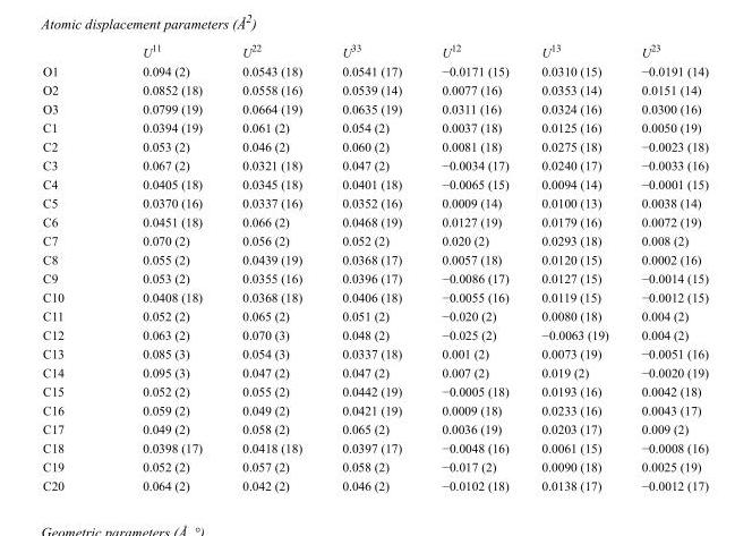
<table><thead><tr><td></td><td>U<sup>11</sup></td><td>U<sup>22</sup></td><td>U<sup>33</sup></td><td>U<sup>12</sup></td><td>U<sup>13</sup></td><td>U<sup>23</sup></td></tr></thead><tbody><tr><td>O1</td><td>0.094 (2)</td><td>0.0543 (18)</td><td>0.0541 (17)</td><td>−0.0171 (15)</td><td>0.0310 (15)</td><td>−0.0191 (14)</td></tr><tr><td>O2</td><td>0.0852 (18)</td><td>0.0558 (16)</td><td>0.0539 (14)</td><td>0.0077 (16)</td><td>0.0353 (14)</td><td>0.0151 (14)</td></tr><tr><td>O3</td><td>0.0799 (19)</td><td>0.0664 (19)</td><td>0.0635 (19)</td><td>0.0311 (16)</td><td>0.0324 (16)</td><td>0.0300 (16)</td></tr><tr><td>C1</td><td>0.0394 (19)</td><td>0.061 (2)</td><td>0.054 (2)</td><td>0.0037 (18)</td><td>0.0125 (16)</td><td>0.0050 (19)</td></tr><tr><td>C2</td><td>0.053 (2)</td><td>0.046 (2)</td><td>0.060 (2)</td><td>0.0081 (18)</td><td>0.0275 (18)</td><td>−0.0023 (18)</td></tr><tr><td>C3</td><td>0.067 (2)</td><td>0.0321 (18)</td><td>0.047 (2)</td><td>−0.0034 (17)</td><td>0.0240 (17)</td><td>−0.0033 (16)</td></tr><tr><td>C4</td><td>0.0405 (18)</td><td>0.0345 (18)</td><td>0.0401 (18)</td><td>−0.0065 (15)</td><td>0.0094 (14)</td><td>−0.0001 (15)</td></tr><tr><td>C5</td><td>0.0370 (16)</td><td>0.0337 (16)</td><td>0.0352 (16)</td><td>0.0009 (14)</td><td>0.0100 (13)</td><td>0.0038 (14)</td></tr><tr><td>C6</td><td>0.0451 (18)</td><td>0.066 (2)</td><td>0.0468 (19)</td><td>0.0127 (19)</td><td>0.0179 (16)</td><td>0.0072 (19)</td></tr><tr><td>C7</td><td>0.070 (2)</td><td>0.056 (2)</td><td>0.052 (2)</td><td>0.020 (2)</td><td>0.0293 (18)</td><td>0.008 (2)</td></tr><tr><td>C8</td><td>0.055 (2)</td><td>0.0439 (19)</td><td>0.0368 (17)</td><td>0.0057 (18)</td><td>0.0120 (15)</td><td>0.0002 (16)</td></tr><tr><td>C9</td><td>0.053 (2)</td><td>0.0355 (16)</td><td>0.0396 (17)</td><td>−0.0086 (17)</td><td>0.0127 (15)</td><td>−0.0014 (15)</td></tr><tr><td>C10</td><td>0.0408 (18)</td><td>0.0368 (18)</td><td>0.0406 (18)</td><td>−0.0055 (16)</td><td>0.0119 (15)</td><td>−0.0012 (15)</td></tr><tr><td>C11</td><td>0.052 (2)</td><td>0.065 (2)</td><td>0.051 (2)</td><td>−0.020 (2)</td><td>0.0080 (18)</td><td>0.004 (2)</td></tr><tr><td>C12</td><td>0.063 (2)</td><td>0.070 (3)</td><td>0.048 (2)</td><td>−0.025 (2)</td><td>−0.0063 (19)</td><td>0.004 (2)</td></tr><tr><td>C13</td><td>0.085 (3)</td><td>0.054 (3)</td><td>0.0337 (18)</td><td>0.001 (2)</td><td>0.0073 (19)</td><td>−0.0051 (16)</td></tr><tr><td>C14</td><td>0.095 (3)</td><td>0.047 (2)</td><td>0.047 (2)</td><td>0.007 (2)</td><td>0.019 (2)</td><td>−0.0020 (19)</td></tr><tr><td>C15</td><td>0.052 (2)</td><td>0.055 (2)</td><td>0.0442 (19)</td><td>−0.0005 (18)</td><td>0.0193 (16)</td><td>0.0042 (18)</td></tr><tr><td>C16</td><td>0.059 (2)</td><td>0.049 (2)</td><td>0.0421 (19)</td><td>0.0009 (18)</td><td>0.0233 (16)</td><td>0.0043 (17)</td></tr><tr><td>C17</td><td>0.049 (2)</td><td>0.058 (2)</td><td>0.065 (2)</td><td>0.0036 (19)</td><td>0.0203 (17)</td><td>0.009 (2)</td></tr><tr><td>C18</td><td>0.0398 (17)</td><td>0.0418 (18)</td><td>0.0397 (17)</td><td>−0.0048 (16)</td><td>0.0061 (15)</td><td>−0.0008 (16)</td></tr><tr><td>C19</td><td>0.052 (2)</td><td>0.057 (2)</td><td>0.058 (2)</td><td>−0.017 (2)</td><td>0.0090 (18)</td><td>0.0025 (19)</td></tr><tr><td>C20</td><td>0.064 (2)</td><td>0.042 (2)</td><td>0.046 (2)</td><td>−0.0102 (18)</td><td>0.0138 (17)</td><td>−0.0012 (17)</td></tr></tbody></table>